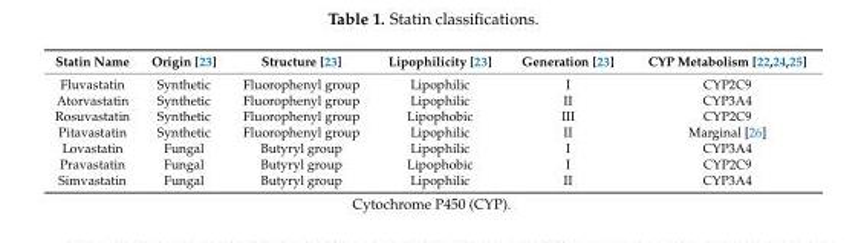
<table><thead><tr><td>Statin Name</td><td>Origin [23]</td><td>Structure [23]</td><td>Lipophilicity [23]</td><td>Generation [23]</td><td>CYP Metabolism [22,24,25]</td></tr></thead><tbody><tr><td>Fluvastatin</td><td>Synthetic</td><td>Fluorophenyl group</td><td>Lipophilic</td><td>I</td><td>CYP2C9</td></tr><tr><td>Atorvastatin</td><td>Synthetic</td><td>Fluorophenyl group</td><td>Lipophilic</td><td>II</td><td>CYP3A4</td></tr><tr><td>Rosuvastatin</td><td>Synthetic</td><td>Fluorophenyl group</td><td>Lipophobic</td><td>III</td><td>CYP2C9</td></tr><tr><td>Pitavastatin</td><td>Synthetic</td><td>Fluorophenyl group</td><td>Lipophilic</td><td>II</td><td>Marginal [26]</td></tr><tr><td>Lovastatin</td><td>Fungal</td><td>Butyryl group</td><td>Lipophilic</td><td>I</td><td>CYP3A4</td></tr><tr><td>Pravastatin</td><td>Fungal</td><td>Butyryl group</td><td>Lipophobic</td><td>I</td><td>CYP2C9</td></tr><tr><td>Simvastatin</td><td>Fungal</td><td>Butyryl group</td><td>Lipophilic</td><td>II</td><td>CYP3A4</td></tr></tbody></table>